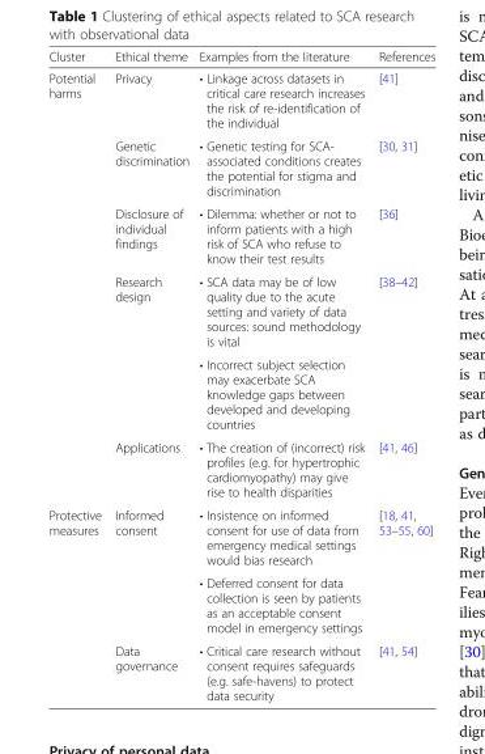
<table><thead><tr><td>Cluster</td><td>Ethical theme</td><td>Examples from the literature</td><td>References</td></tr></thead><tbody><tr><td rowspan="6">Potential harms</td><td>Privacy</td><td>• Linkage across datasets in critical care research increases the risk of re-identification of the individual</td><td>[41]</td></tr><tr><td>Genetic discrimination</td><td>• Genetic testing for SCA- associated conditions creates the potential for stigma and discrimination</td><td>[30, 31]</td></tr><tr><td>Disclosure of individual findings</td><td>• Dilemma: whether or not to inform patients with a high risk of SCA who refuse to know their test results</td><td>[36]</td></tr><tr><td rowspan="2">Research design</td><td>• SCA data may be of low quality due to the acute setting and variety of data sources: sound methodology is vital</td><td rowspan="2">[38–42]</td></tr><tr><td>• Incorrect subject selection may exacerbate SCA knowledge gaps between developed and developing countries</td></tr><tr><td>Applications</td><td>• The creation of (incorrect) risk profiles (e.g. for hypertrophic cardiomyopathy) may give rise to health disparities</td><td>[41, 46]</td></tr><tr><td rowspan="3">Protective measures</td><td rowspan="2">Informed consent</td><td>• Insistence on informed consent for use of data from emergency medical settings would bias research</td><td rowspan="2">[18, 41, 53–55, 60]</td></tr><tr><td>• Deferred consent for data collection is seen by patients as an acceptable consent model in emergency settings</td></tr><tr><td>Data governance</td><td>• Critical care research without consent requires safeguards (e.g. safe-havens) to protect data security</td><td>[41, 54]</td></tr></tbody></table>